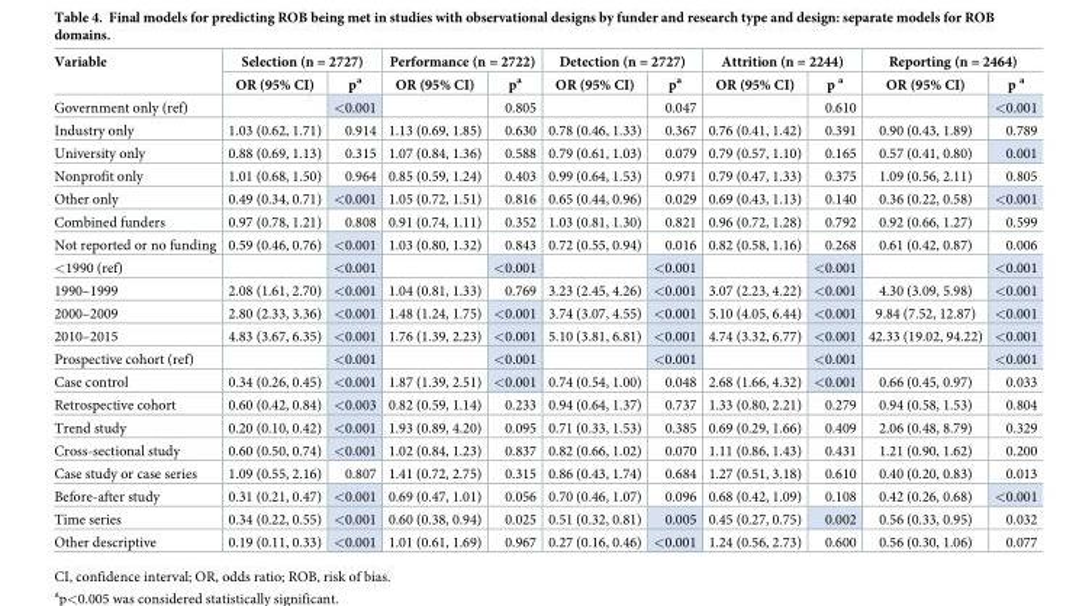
<table><thead><tr><td rowspan="2">Variable</td><td colspan="2">Selection (n = 2727)</td><td colspan="2">Performance (n = 2722)</td><td colspan="2">Detection (n = 2727)</td><td colspan="2">Attrition (n = 2244)</td><td colspan="2">Reporting (n = 2464)</td></tr><tr><td>OR (95% CI)</td><td>p<sup>a</sup></td><td>OR (95% CI)</td><td>p<sup>a</sup></td><td>OR (95% CI)</td><td>p<sup>a</sup></td><td>OR (95% CI)</td><td>p <sup>a</sup></td><td>OR (95% CI)</td><td>p <sup>a</sup></td></tr></thead><tbody><tr><td>Government only (ref)</td><td></td><td>&lt;0.001</td><td></td><td>0.805</td><td></td><td>0.047</td><td></td><td>0.610</td><td></td><td>&lt;0.001</td></tr><tr><td>Industry only</td><td>1.03 (0.62, 1.71)</td><td>0.914</td><td>1.13 (0.69, 1.85)</td><td>0.630</td><td>0.78 (0.46, 1.33)</td><td>0.367</td><td>0.76 (0.41, 1.42)</td><td>0.391</td><td>0.90 (0.43, 1.89)</td><td>0.789</td></tr><tr><td>University only</td><td>0.88 (0.69, 1.13)</td><td>0.315</td><td>1.07 (0.84, 1.36)</td><td>0.588</td><td>0.79 (0.61, 1.03)</td><td>0.079</td><td>0.79 (0.57, 1.10)</td><td>0.165</td><td>0.57 (0.41, 0.80)</td><td>0.001</td></tr><tr><td>Nonprofit only</td><td>1.01 (0.68, 1.50)</td><td>0.964</td><td>0.85 (0.59, 1.24)</td><td>0.403</td><td>0.99 (0.64, 1.53)</td><td>0.971</td><td>0.79 (0.47, 1.33)</td><td>0.375</td><td>1.09 (0.56, 2.11)</td><td>0.805</td></tr><tr><td>Other only</td><td>0.49 (0.34, 0.71)</td><td>&lt;0.001</td><td>1.05 (0.72, 1.51)</td><td>0.816</td><td>0.65 (0.44, 0.96)</td><td>0.029</td><td>0.69 (0.43, 1.13)</td><td>0.140</td><td>0.36 (0.22, 0.58)</td><td>&lt;0.001</td></tr><tr><td>Combined funders</td><td>0.97 (0.78, 1.21)</td><td>0.808</td><td>0.91 (0.74, 1.11)</td><td>0.352</td><td>1.03 (0.81, 1.30)</td><td>0.821</td><td>0.96 (0.72, 1.28)</td><td>0.792</td><td>0.92 (0.66, 1.27)</td><td>0.599</td></tr><tr><td>Not reported or no funding</td><td>0.59 (0.46, 0.76)</td><td>&lt;0.001</td><td>1.03 (0.80, 1.32)</td><td>0.843</td><td>0.72 (0.55, 0.94)</td><td>0.016</td><td>0.82 (0.58, 1.16)</td><td>0.268</td><td>0.61 (0.42, 0.87)</td><td>0.006</td></tr><tr><td>&lt;1990 (ref)</td><td></td><td>&lt;0.001</td><td></td><td>&lt;0.001</td><td></td><td>&lt;0.001</td><td></td><td>&lt;0.001</td><td></td><td>&lt;0.001</td></tr><tr><td>1990–1999</td><td>2.08 (1.61, 2.70)</td><td>&lt;0.001</td><td>1.04 (0.81, 1.33)</td><td>0.769</td><td>3.23 (2.45, 4.26)</td><td>&lt;0.001</td><td>3.07 (2.23, 4.22)</td><td>&lt;0.001</td><td>4.30 (3.09, 5.98)</td><td>&lt;0.001</td></tr><tr><td>2000–2009</td><td>2.80 (2.33, 3.36)</td><td>&lt;0.001</td><td>1.48 (1.24, 1.75)</td><td>&lt;0.001</td><td>3.74 (3.07, 4.55)</td><td>&lt;0.001</td><td>5.10 (4.05, 6.44)</td><td>&lt;0.001</td><td>9.84 (7.52, 12.87)</td><td>&lt;0.001</td></tr><tr><td>2010–2015</td><td>4.83 (3.67, 6.35)</td><td>&lt;0.001</td><td>1.76 (1.39, 2.23)</td><td>&lt;0.001</td><td>5.10 (3.81, 6.81)</td><td>&lt;0.001</td><td>4.74 (3.32, 6.77)</td><td>&lt;0.001</td><td>42.33 (19.02, 94.22)</td><td>&lt;0.001</td></tr><tr><td>Prospective cohort (ref)</td><td></td><td>&lt;0.001</td><td></td><td>&lt;0.001</td><td></td><td>&lt;0.001</td><td></td><td>&lt;0.001</td><td></td><td>&lt;0.001</td></tr><tr><td>Case control</td><td>0.34 (0.26, 0.45)</td><td>&lt;0.001</td><td>1.87 (1.39, 2.51)</td><td>&lt;0.001</td><td>0.74 (0.54, 1.00)</td><td>0.048</td><td>2.68 (1.66, 4.32)</td><td>&lt;0.001</td><td>0.66 (0.45, 0.97)</td><td>0.033</td></tr><tr><td>Retrospective cohort</td><td>0.60 (0.42, 0.84)</td><td>&lt;0.003</td><td>0.82 (0.59, 1.14)</td><td>0.233</td><td>0.94 (0.64, 1.37)</td><td>0.737</td><td>1.33 (0.80, 2.21)</td><td>0.279</td><td>0.94 (0.58, 1.53)</td><td>0.804</td></tr><tr><td>Trend study</td><td>0.20 (0.10, 0.42)</td><td>&lt;0.001</td><td>1.93 (0.89, 4.20)</td><td>0.095</td><td>0.71 (0.33, 1.53)</td><td>0.385</td><td>0.69 (0.29, 1.66)</td><td>0.409</td><td>2.06 (0.48, 8.79)</td><td>0.329</td></tr><tr><td>Cross-sectional study</td><td>0.60 (0.50, 0.74)</td><td>&lt;0.001</td><td>1.02 (0.84, 1.23)</td><td>0.837</td><td>0.82 (0.66, 1.02)</td><td>0.070</td><td>1.11 (0.86, 1.43)</td><td>0.431</td><td>1.21 (0.90, 1.62)</td><td>0.200</td></tr><tr><td>Case study or case series</td><td>1.09 (0.55, 2.16)</td><td>0.807</td><td>1.41 (0.72, 2.75)</td><td>0.315</td><td>0.86 (0.43, 1.74)</td><td>0.684</td><td>1.27 (0.51, 3.18)</td><td>0.610</td><td>0.40 (0.20, 0.83)</td><td>0.013</td></tr><tr><td>Before-after study</td><td>0.31 (0.21, 0.47)</td><td>&lt;0.001</td><td>0.69 (0.47, 1.01)</td><td>0.056</td><td>0.70 (0.46, 1.07)</td><td>0.096</td><td>0.68 (0.42, 1.09)</td><td>0.108</td><td>0.42 (0.26, 0.68)</td><td>&lt;0.001</td></tr><tr><td>Time series</td><td>0.34 (0.22, 0.55)</td><td>&lt;0.001</td><td>0.60 (0.38, 0.94)</td><td>0.025</td><td>0.51 (0.32, 0.81)</td><td>0.005</td><td>0.45 (0.27, 0.75)</td><td>0.002</td><td>0.56 (0.33, 0.95)</td><td>0.032</td></tr><tr><td>Other descriptive</td><td>0.19 (0.11, 0.33)</td><td>&lt;0.001</td><td>1.01 (0.61, 1.69)</td><td>0.967</td><td>0.27 (0.16, 0.46)</td><td>&lt;0.001</td><td>1.24 (0.56, 2.73)</td><td>0.600</td><td>0.56 (0.30, 1.06)</td><td>0.077</td></tr></tbody></table>